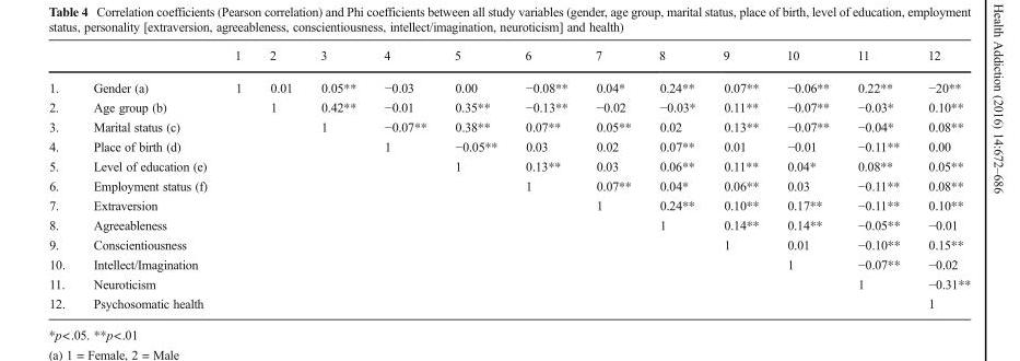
<table><thead><tr><td></td><td></td><td>1</td><td>2</td><td>3</td><td>4</td><td>5</td><td>6</td><td>7</td><td>8</td><td>9</td><td>10</td><td>11</td><td>12</td></tr></thead><tbody><tr><td>1.</td><td>Gender (a)</td><td>1</td><td>0.01</td><td>0.05**</td><td>−0.03</td><td>0.00</td><td>−0.08**</td><td>0.04*</td><td>0.24**</td><td>0.07**</td><td>−0.06**</td><td>0.22**</td><td>−20**</td></tr><tr><td>2.</td><td>Age group (b)</td><td></td><td>1</td><td>0.42**</td><td>−0.01</td><td>0.35**</td><td>−0.13**</td><td>−0.02</td><td>−0.03*</td><td>0.11**</td><td>−0.07**</td><td>−0.03*</td><td>0.10**</td></tr><tr><td>3.</td><td>Marital status (c)</td><td></td><td></td><td>1</td><td>−0.07**</td><td>0.38**</td><td>0.07**</td><td>0.05**</td><td>0.02</td><td>0.13**</td><td>−0.07**</td><td>−0.04*</td><td>0.08**</td></tr><tr><td>4.</td><td>Place of birth (d)</td><td></td><td></td><td></td><td>1</td><td>−0.05**</td><td>0.03</td><td>0.02</td><td>0.07**</td><td>0.01</td><td>−0.01</td><td>−0.11**</td><td>0.00</td></tr><tr><td>5.</td><td>Level of education (e)</td><td></td><td></td><td></td><td></td><td>1</td><td>0.13**</td><td>0.03</td><td>0.06**</td><td>0.11**</td><td>0.04*</td><td>0.08**</td><td>0.05**</td></tr><tr><td>6.</td><td>Employment status (f)</td><td></td><td></td><td></td><td></td><td></td><td>1</td><td>0.07**</td><td>0.04*</td><td>0.06**</td><td>0.03</td><td>−0.11**</td><td>0.08**</td></tr><tr><td>7.</td><td>Extraversion</td><td></td><td></td><td></td><td></td><td></td><td></td><td>1</td><td>0.24**</td><td>0.10**</td><td>0.17**</td><td>−0.11**</td><td>0.10**</td></tr><tr><td>8.</td><td>Agreeableness</td><td></td><td></td><td></td><td></td><td></td><td></td><td></td><td>1</td><td>0.14**</td><td>0.14**</td><td>−0.05**</td><td>−0.01</td></tr><tr><td>9.</td><td>Conscientiousness</td><td></td><td></td><td></td><td></td><td></td><td></td><td></td><td></td><td>1</td><td>0.01</td><td>−0.10**</td><td>0.15**</td></tr><tr><td>10.</td><td>Intellect/Imagination</td><td></td><td></td><td></td><td></td><td></td><td></td><td></td><td></td><td></td><td>1</td><td>−0.07**</td><td>−0.02</td></tr><tr><td>11.</td><td>Neuroticism</td><td></td><td></td><td></td><td></td><td></td><td></td><td></td><td></td><td></td><td></td><td>1</td><td>−0.31**</td></tr><tr><td>12.</td><td>Psychosomatic health</td><td></td><td></td><td></td><td></td><td></td><td></td><td></td><td></td><td></td><td></td><td></td><td>1</td></tr></tbody></table>